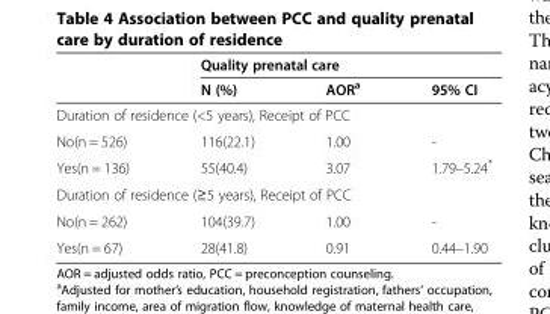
<table><thead><tr><td rowspan="2"></td><td colspan="3">Quality prenatal care</td></tr><tr><td>N (%)</td><td>AOR<sup>a</sup></td><td>95% CI</td></tr></thead><tbody><tr><td colspan="4">Duration of residence (&lt;5 years), Receipt of PCC</td></tr><tr><td>No(n = 526)</td><td>116(22.1)</td><td>1.00</td><td>-</td></tr><tr><td>Yes(n = 136)</td><td>55(40.4)</td><td>3.07</td><td>1.79–5.24*</td></tr><tr><td colspan="4">Duration of residence (≥5 years), Receipt of PCC</td></tr><tr><td>No(n = 262)</td><td>104(39.7)</td><td>1.00</td><td>-</td></tr><tr><td>Yes(n = 67)</td><td>28(41.8)</td><td>0.91</td><td>0.44–1.90</td></tr></tbody></table>